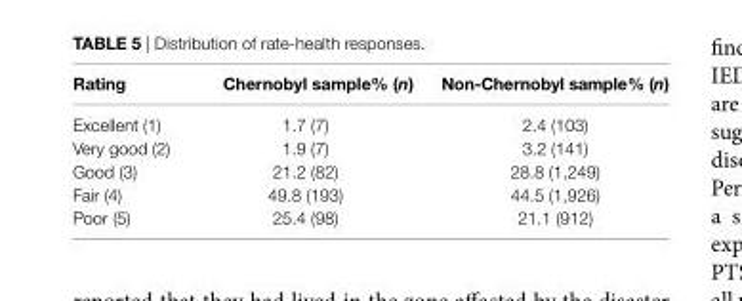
<table><thead><tr><td>rating</td><td>chernobyl sample% (n)</td><td>non-chernobyl sample% (n)</td></tr></thead><tbody><tr><td>Excellent (1)</td><td>1.7 (7)</td><td>2.4 (103)</td></tr><tr><td>Very good (2)</td><td>1.9 (7)</td><td>3.2 (141)</td></tr><tr><td>Good (3)</td><td>21.2 (82)</td><td>28.8 (1,249)</td></tr><tr><td>Fair (4)</td><td>49.8 (193)</td><td>44.5 (1,926)</td></tr><tr><td>Poor (5)</td><td>25.4 (98)</td><td>21.1 (912)</td></tr></tbody></table>